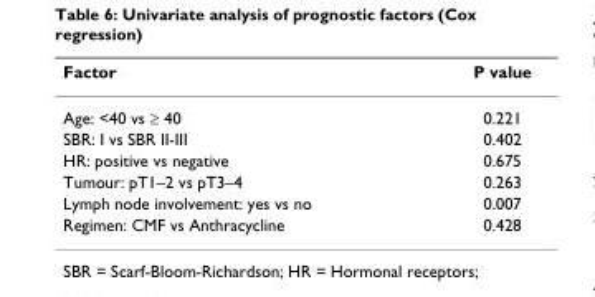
<table><thead><tr><td>Factor</td><td>P value</td></tr></thead><tbody><tr><td>Age: &lt;40 vs ≥ 40</td><td>0.221</td></tr><tr><td>SBR: I vs SBR II-III</td><td>0.402</td></tr><tr><td>HR: positive vs negative</td><td>0.675</td></tr><tr><td>Tumour: pT1–2 vs pT3–4</td><td>0.263</td></tr><tr><td>Lymph node involvement: yes vs no</td><td>0.007</td></tr><tr><td>Regimen: CMF vs Anthracycline</td><td>0.428</td></tr></tbody></table>